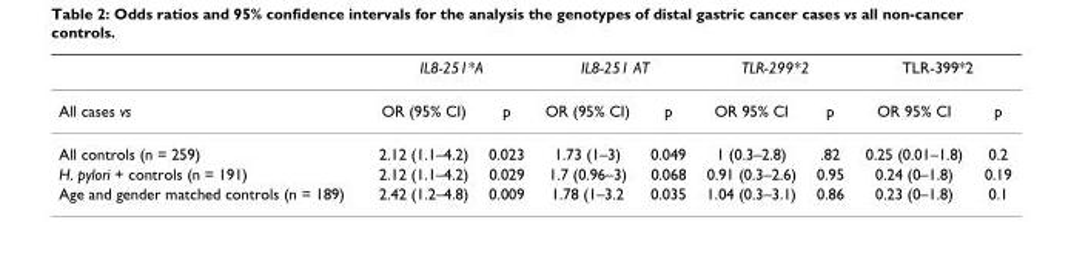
<table><thead><tr><td rowspan="2">All cases vs</td><td colspan="2">IL8-251*A</td><td colspan="2">IL8-251 AT</td><td colspan="2">TLR-299*2</td><td colspan="2">TLR-399*2</td></tr><tr><td>OR (95% CI)</td><td>p</td><td>OR (95% CI)</td><td>p</td><td>OR 95% CI</td><td>p</td><td>OR 95% CI</td><td>p</td></tr></thead><tbody><tr><td>All controls (n = 259)</td><td>2.12 (1.1–4.2)</td><td>0.023</td><td>1.73 (1–3)</td><td>0.049</td><td>1 (0.3–2.8)</td><td>.82</td><td>0.25 (0.01–1.8)</td><td>0.2</td></tr><tr><td>H. pylori + controls (n = 191)</td><td>2.12 (1.1–4.2)</td><td>0.029</td><td>1.7 (0.96–3)</td><td>0.068</td><td>0.91 (0.3–2.6)</td><td>0.95</td><td>0.24 (0–1.8)</td><td>0.19</td></tr><tr><td>Age and gender matched controls (n = 189)</td><td>2.42 (1.2–4.8)</td><td>0.009</td><td>1.78 (1–3.2</td><td>0.035</td><td>1.04 (0.3–3.1)</td><td>0.86</td><td>0.23 (0–1.8)</td><td>0.1</td></tr></tbody></table>